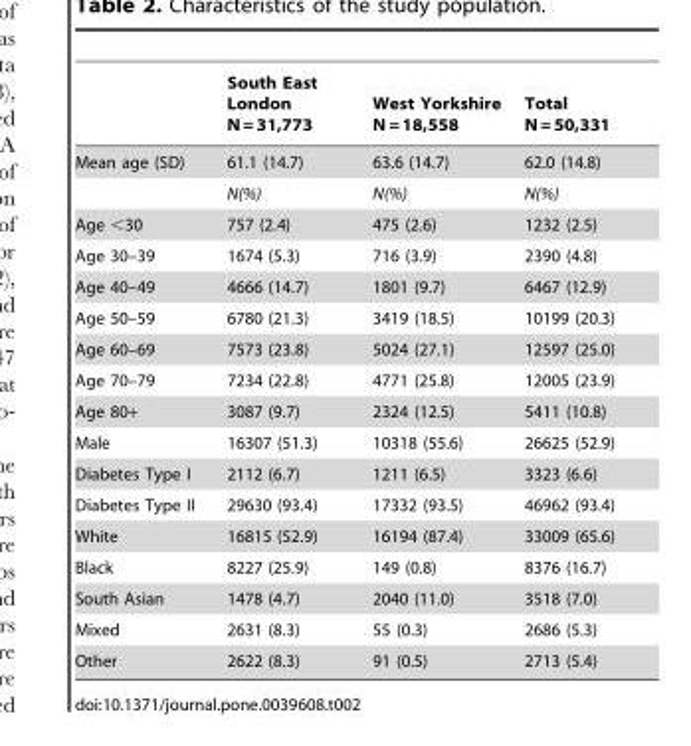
<table><thead><tr><td></td><td>South East London N = 31,773</td><td>West Yorkshire N = 18,558</td><td>Total N = 50,331</td></tr></thead><tbody><tr><td rowspan="2">Mean age (SD)</td><td>61.1 (14.7)</td><td>63.6 (14.7)</td><td>62.0 (14.8)</td></tr><tr><td>N(%)</td><td>N(%)</td><td>N(%)</td></tr><tr><td>Age &lt;30</td><td>757 (2.4)</td><td>475 (2.6)</td><td>1232 (2.5)</td></tr><tr><td>Age 30–39</td><td>1674 (5.3)</td><td>716 (3.9)</td><td>2390 (4.8)</td></tr><tr><td>Age 40–49</td><td>4666 (14.7)</td><td>1801 (9.7)</td><td>6467 (12.9)</td></tr><tr><td>Age 50–59</td><td>6780 (21.3)</td><td>3419 (18.5)</td><td>10199 (20.3)</td></tr><tr><td>Age 60–69</td><td>7573 (23.8)</td><td>5024 (27.1)</td><td>12597 (25.0)</td></tr><tr><td>Age 70–79</td><td>7234 (22.8)</td><td>4771 (25.8)</td><td>12005 (23.9)</td></tr><tr><td>Age 80+</td><td>3087 (9.7)</td><td>2324 (12.5)</td><td>5411 (10.8)</td></tr><tr><td>Male</td><td>16307 (51.3)</td><td>10318 (55.6)</td><td>26625 (52.9)</td></tr><tr><td>Diabetes Type I</td><td>2112 (6.7)</td><td>1211 (6.5)</td><td>3323 (6.6)</td></tr><tr><td>Diabetes Type II</td><td>29630 (93.4)</td><td>17332 (93.5)</td><td>46962 (93.4)</td></tr><tr><td>White</td><td>16815 (52.9)</td><td>16194 (87.4)</td><td>33009 (65.6)</td></tr><tr><td>Black</td><td>8227 (25.9)</td><td>149 (0.8)</td><td>8376 (16.7)</td></tr><tr><td>South Asian</td><td>1478 (4.7)</td><td>2040 (11.0)</td><td>3518 (7.0)</td></tr><tr><td>Mixed</td><td>2631 (8.3)</td><td>55 (0.3)</td><td>2686 (5.3)</td></tr><tr><td>Other</td><td>2622 (8.3)</td><td>91 (0.5)</td><td>2713 (5.4)</td></tr></tbody></table>